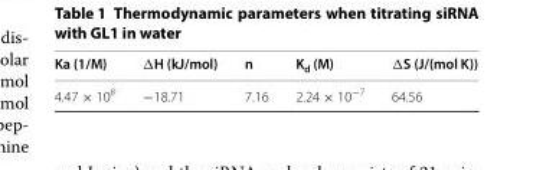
<table><thead><tr><td>Ka (1/M)</td><td>ΔH (kJ/mol)</td><td>n</td><td>K<sub>d</sub> (M)</td><td>ΔS (J/(mol K))</td></tr></thead><tbody><tr><td>4.47 × 10<sup>8</sup></td><td>−18.71</td><td>7.16</td><td>2.24 × 10<sup>−7</sup></td><td>64.56</td></tr></tbody></table>